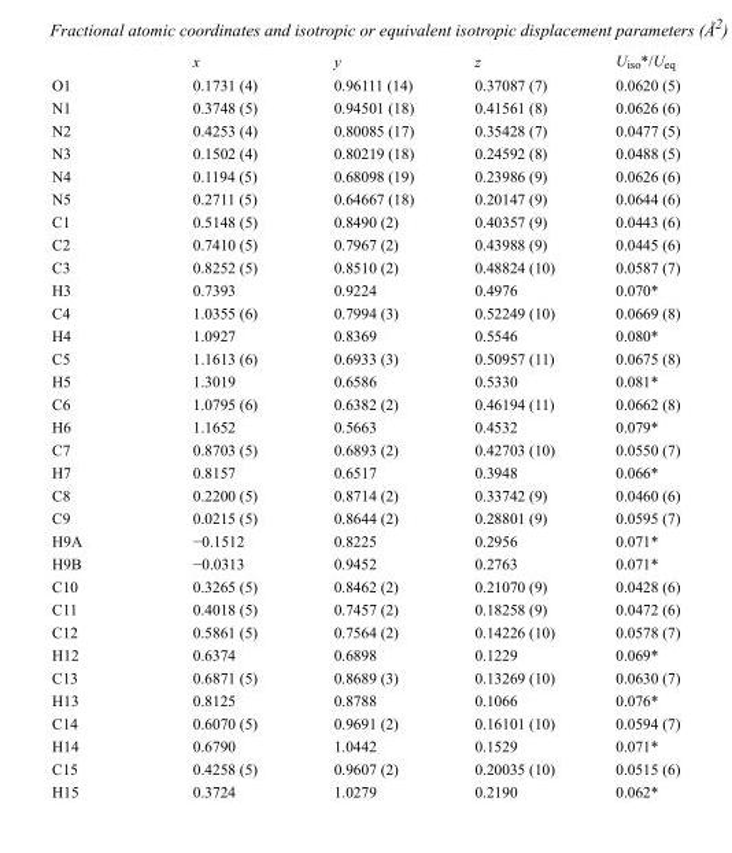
<table><thead><tr><td></td><td>x</td><td>y</td><td>z</td><td>U<sub>iso</sub>*/U<sub>eq</sub></td></tr></thead><tbody><tr><td>O1</td><td>0.1731 (4)</td><td>0.96111 (14)</td><td>0.37087 (7)</td><td>0.0620 (5)</td></tr><tr><td>N1</td><td>0.3748 (5)</td><td>0.94501 (18)</td><td>0.41561 (8)</td><td>0.0626 (6)</td></tr><tr><td>N2</td><td>0.4253 (4)</td><td>0.80085 (17)</td><td>0.35428 (7)</td><td>0.0477 (5)</td></tr><tr><td>N3</td><td>0.1502 (4)</td><td>0.80219 (18)</td><td>0.24592 (8)</td><td>0.0488 (5)</td></tr><tr><td>N4</td><td>0.1194 (5)</td><td>0.68098 (19)</td><td>0.23986 (9)</td><td>0.0626 (6)</td></tr><tr><td>N5</td><td>0.2711 (5)</td><td>0.64667 (18)</td><td>0.20147 (9)</td><td>0.0644 (6)</td></tr><tr><td>C1</td><td>0.5148 (5)</td><td>0.8490 (2)</td><td>0.40357 (9)</td><td>0.0443 (6)</td></tr><tr><td>C2</td><td>0.7410 (5)</td><td>0.7967 (2)</td><td>0.43988 (9)</td><td>0.0445 (6)</td></tr><tr><td>C3</td><td>0.8252 (5)</td><td>0.8510 (2)</td><td>0.48824 (10)</td><td>0.0587 (7)</td></tr><tr><td>H3</td><td>0.7393</td><td>0.9224</td><td>0.4976</td><td>0.070*</td></tr><tr><td>C4</td><td>1.0355 (6)</td><td>0.7994 (3)</td><td>0.52249 (10)</td><td>0.0669 (8)</td></tr><tr><td>H4</td><td>1.0927</td><td>0.8369</td><td>0.5546</td><td>0.080*</td></tr><tr><td>C5</td><td>1.1613 (6)</td><td>0.6933 (3)</td><td>0.50957 (11)</td><td>0.0675 (8)</td></tr><tr><td>H5</td><td>1.3019</td><td>0.6586</td><td>0.5330</td><td>0.081*</td></tr><tr><td>C6</td><td>1.0795 (6)</td><td>0.6382 (2)</td><td>0.46194 (11)</td><td>0.0662 (8)</td></tr><tr><td>H6</td><td>1.1652</td><td>0.5663</td><td>0.4532</td><td>0.079*</td></tr><tr><td>C7</td><td>0.8703 (5)</td><td>0.6893 (2)</td><td>0.42703 (10)</td><td>0.0550 (7)</td></tr><tr><td>H7</td><td>0.8157</td><td>0.6517</td><td>0.3948</td><td>0.066*</td></tr><tr><td>C8</td><td>0.2200 (5)</td><td>0.8714 (2)</td><td>0.33742 (9)</td><td>0.0460 (6)</td></tr><tr><td>C9</td><td>0.0215 (5)</td><td>0.8644 (2)</td><td>0.28801 (9)</td><td>0.0595 (7)</td></tr><tr><td>H9A</td><td>−0.1512</td><td>0.8225</td><td>0.2956</td><td>0.071*</td></tr><tr><td>H9B</td><td>−0.0313</td><td>0.9452</td><td>0.2763</td><td>0.071*</td></tr><tr><td>C10</td><td>0.3265 (5)</td><td>0.8462 (2)</td><td>0.21070 (9)</td><td>0.0428 (6)</td></tr><tr><td>C11</td><td>0.4018 (5)</td><td>0.7457 (2)</td><td>0.18258 (9)</td><td>0.0472 (6)</td></tr><tr><td>C12</td><td>0.5861 (5)</td><td>0.7564 (2)</td><td>0.14226 (10)</td><td>0.0578 (7)</td></tr><tr><td>H12</td><td>0.6374</td><td>0.6898</td><td>0.1229</td><td>0.069*</td></tr><tr><td>C13</td><td>0.6871 (5)</td><td>0.8689 (3)</td><td>0.13269 (10)</td><td>0.0630 (7)</td></tr><tr><td>H13</td><td>0.8125</td><td>0.8788</td><td>0.1066</td><td>0.076*</td></tr><tr><td>C14</td><td>0.6070 (5)</td><td>0.9691 (2)</td><td>0.16101 (10)</td><td>0.0594 (7)</td></tr><tr><td>H14</td><td>0.6790</td><td>1.0442</td><td>0.1529</td><td>0.071*</td></tr><tr><td>C15</td><td>0.4258 (5)</td><td>0.9607 (2)</td><td>0.20035 (10)</td><td>0.0515 (6)</td></tr><tr><td>H15</td><td>0.3724</td><td>1.0279</td><td>0.2190</td><td>0.062*</td></tr></tbody></table>